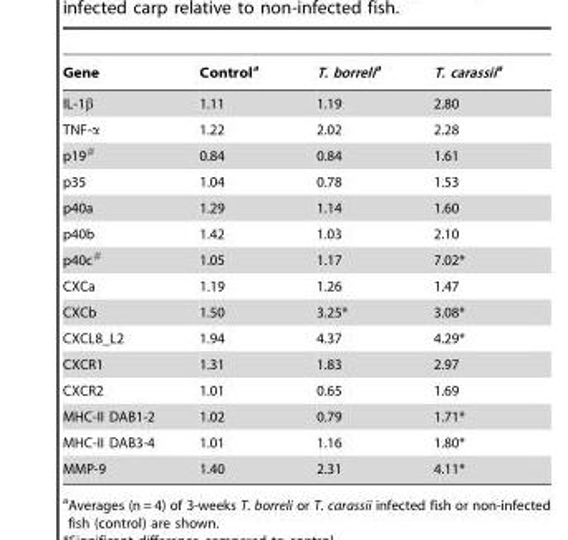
<table><thead><tr><td>Gene</td><td>Control<sup>a</sup></td><td>T. borrelia</td><td>T. carassiia</td></tr></thead><tbody><tr><td>IL-1β</td><td>1.11</td><td>1.19</td><td>2.80</td></tr><tr><td>TNF-α</td><td>1.22</td><td>2.02</td><td>2.28</td></tr><tr><td>p19#</td><td>0.84</td><td>0.84</td><td>1.61</td></tr><tr><td>p35</td><td>1.04</td><td>0.78</td><td>1.53</td></tr><tr><td>p40a</td><td>1.29</td><td>1.14</td><td>1.60</td></tr><tr><td>p40b</td><td>1.42</td><td>1.03</td><td>2.10</td></tr><tr><td>p40c#</td><td>1.05</td><td>1.17</td><td>7.02*</td></tr><tr><td>CXCa</td><td>1.19</td><td>1.26</td><td>1.47</td></tr><tr><td>CXCb</td><td>1.50</td><td>3.25*</td><td>3.08*</td></tr><tr><td>CXCL8_L2</td><td>1.94</td><td>4.37</td><td>4.29*</td></tr><tr><td>CXCR1</td><td>1.31</td><td>1.83</td><td>2.97</td></tr><tr><td>CXCR2</td><td>1.01</td><td>0.65</td><td>1.69</td></tr><tr><td>MHC-II DAB1-2</td><td>1.02</td><td>0.79</td><td>1.71*</td></tr><tr><td>MHC-II DAB3-4</td><td>1.01</td><td>1.16</td><td>1.80*</td></tr><tr><td>MMP-9</td><td>1.40</td><td>2.31</td><td>4.11*</td></tr></tbody></table>